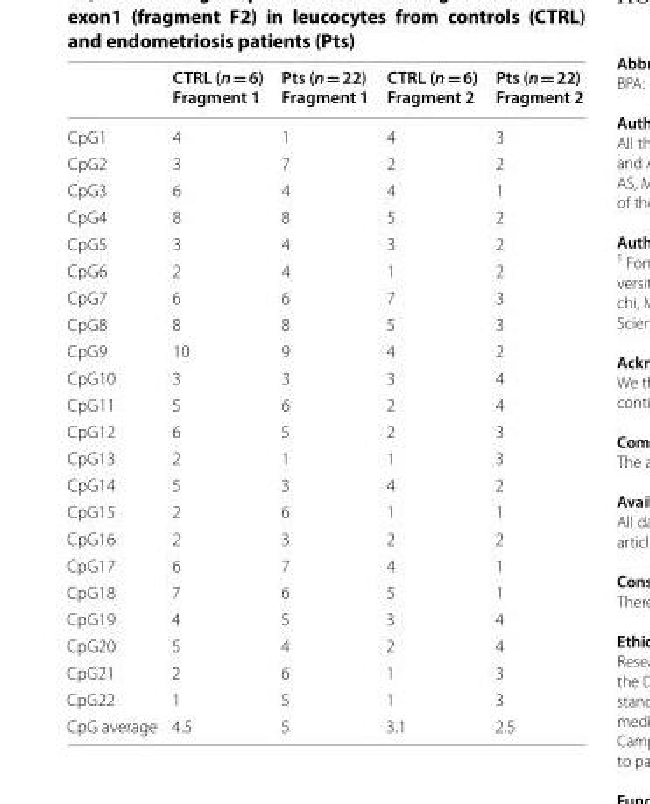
<table><thead><tr><td></td><td>CTRL (n = 6) Fragment 1</td><td>Pts (n = 22) Fragment 1</td><td>CTRL (n = 6) Fragment 2</td><td>Pts (n = 22) Fragment 2</td></tr></thead><tbody><tr><td>CpG1</td><td>4</td><td>1</td><td>4</td><td>3</td></tr><tr><td>CpG2</td><td>3</td><td>7</td><td>2</td><td>2</td></tr><tr><td>CpG3</td><td>6</td><td>4</td><td>4</td><td>1</td></tr><tr><td>CpG4</td><td>8</td><td>8</td><td>5</td><td>2</td></tr><tr><td>CpG5</td><td>3</td><td>4</td><td>3</td><td>2</td></tr><tr><td>CpG6</td><td>2</td><td>4</td><td>1</td><td>2</td></tr><tr><td>CpG7</td><td>6</td><td>6</td><td>7</td><td>3</td></tr><tr><td>CpG8</td><td>8</td><td>8</td><td>5</td><td>3</td></tr><tr><td>CpG9</td><td>10</td><td>9</td><td>4</td><td>2</td></tr><tr><td>CpG10</td><td>3</td><td>3</td><td>3</td><td>4</td></tr><tr><td>CpG11</td><td>5</td><td>6</td><td>2</td><td>4</td></tr><tr><td>CpG12</td><td>6</td><td>5</td><td>2</td><td>3</td></tr><tr><td>CpG13</td><td>2</td><td>1</td><td>1</td><td>3</td></tr><tr><td>CpG14</td><td>5</td><td>3</td><td>4</td><td>2</td></tr><tr><td>CpG15</td><td>2</td><td>6</td><td>1</td><td>1</td></tr><tr><td>CpG16</td><td>2</td><td>3</td><td>2</td><td>2</td></tr><tr><td>CpG17</td><td>6</td><td>7</td><td>4</td><td>1</td></tr><tr><td>CpG18</td><td>7</td><td>6</td><td>5</td><td>1</td></tr><tr><td>CpG19</td><td>4</td><td>5</td><td>3</td><td>4</td></tr><tr><td>CpG20</td><td>5</td><td>4</td><td>2</td><td>4</td></tr><tr><td>CpG21</td><td>2</td><td>6</td><td>1</td><td>3</td></tr><tr><td>CpG22</td><td>1</td><td>5</td><td>1</td><td>3</td></tr><tr><td>CpG average</td><td>4.5</td><td>5</td><td>3.1</td><td>2.5</td></tr></tbody></table>